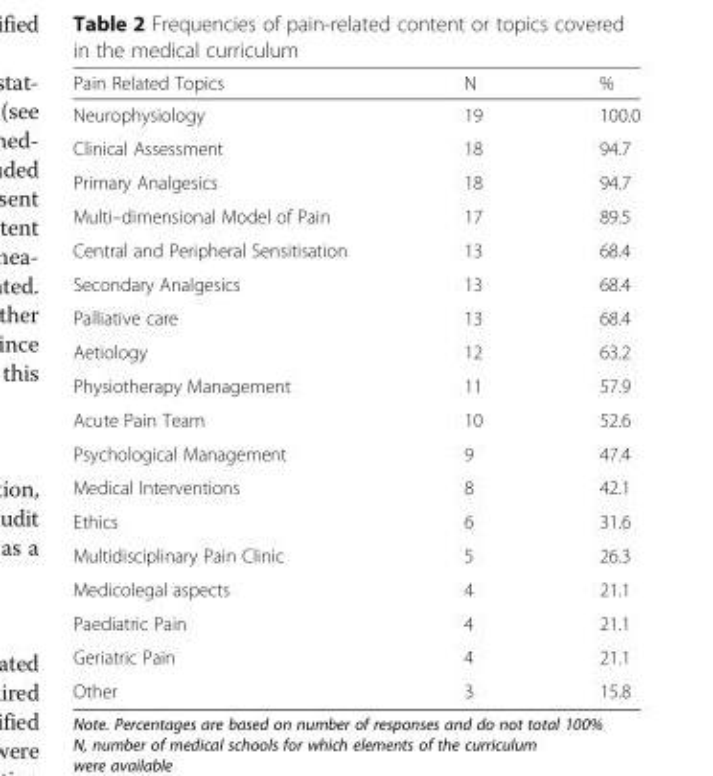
<table><thead><tr><td>Pain Related Topics</td><td>N</td><td>%</td></tr></thead><tbody><tr><td>Neurophysiology</td><td>19</td><td>100.0</td></tr><tr><td>Clinical Assessment</td><td>18</td><td>94.7</td></tr><tr><td>Primary Analgesics</td><td>18</td><td>94.7</td></tr><tr><td>Multi–dimensional Model of Pain</td><td>17</td><td>89.5</td></tr><tr><td>Central and Peripheral Sensitisation</td><td>13</td><td>68.4</td></tr><tr><td>Secondary Analgesics</td><td>13</td><td>68.4</td></tr><tr><td>Palliative care</td><td>13</td><td>68.4</td></tr><tr><td>Aetiology</td><td>12</td><td>63.2</td></tr><tr><td>Physiotherapy Management</td><td>11</td><td>57.9</td></tr><tr><td>Acute Pain Team</td><td>10</td><td>52.6</td></tr><tr><td>Psychological Management</td><td>9</td><td>47.4</td></tr><tr><td>Medical Interventions</td><td>8</td><td>42.1</td></tr><tr><td>Ethics</td><td>6</td><td>31.6</td></tr><tr><td>Multidisciplinary Pain Clinic</td><td>5</td><td>26.3</td></tr><tr><td>Medicolegal aspects</td><td>4</td><td>21.1</td></tr><tr><td>Paediatric Pain</td><td>4</td><td>21.1</td></tr><tr><td>Geriatric Pain</td><td>4</td><td>21.1</td></tr><tr><td>Other</td><td>3</td><td>15.8</td></tr></tbody></table>